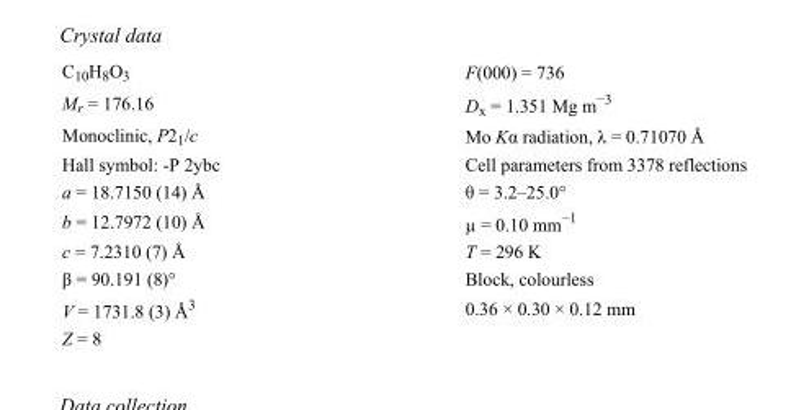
<table><tbody><tr><td>C<sub>10</sub>H<sub>8</sub>O<sub>3</sub></td><td>F(000) = 736</td></tr><tr><td>M<sub>r</sub> = 176.16</td><td>D<sub>x</sub> = 1.351 Mg m<sup>−3</sup></td></tr><tr><td>Monoclinic, P2<sub>1</sub>/c</td><td>Mo Kα radiation, λ = 0.71070 Å</td></tr><tr><td>Hall symbol: -P 2ybc</td><td>Cell parameters from 3378 reflections</td></tr><tr><td>a = 18.7150 (14) Å</td><td>θ = 3.2–25.0°</td></tr><tr><td>b = 12.7972 (10) Å</td><td>µ = 0.10 mm<sup>−1</sup></td></tr><tr><td>c = 7.2310 (7) Å</td><td>T = 296 K</td></tr><tr><td>β = 90.191 (8)°</td><td>Block, colourless</td></tr><tr><td>V = 1731.8 (3) Å<sup>3</sup></td><td>0.36 × 0.30 × 0.12 mm</td></tr><tr><td>Z = 8</td><td></td></tr></tbody></table>